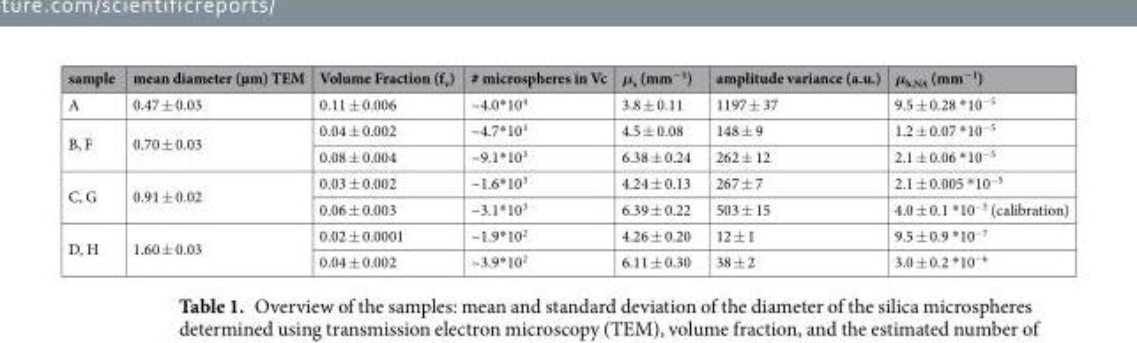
<table><thead><tr><td>sample</td><td>mean diameter (µm) TEM</td><td>Volume Fraction (f<sub>v</sub>)</td><td># microspheres in Vc</td><td>μ<sub>s</sub> (mm<sup>−1</sup>)</td><td>amplitude variance (a.u.)</td><td>μ<sub>b,NA</sub> (mm<sup>−1</sup>)</td></tr></thead><tbody><tr><td>A</td><td>0.47 ± 0.03</td><td>0.11 ± 0.006</td><td>~4.0*10<sup>4</sup></td><td>3.8 ± 0.11</td><td>1197 ± 37</td><td>9.5 ± 0.28 *10<sup>−5</sup></td></tr><tr><td rowspan="2">B, F</td><td rowspan="2">0.70 ± 0.03</td><td>0.04 ± 0.002</td><td>~4.7*10<sup>3</sup></td><td>4.5 ± 0.08</td><td>148 ± 9</td><td>1.2 ± 0.07 *10<sup>−5</sup></td></tr><tr><td>0.08 ± 0.004</td><td>~9.1*10<sup>3</sup></td><td>6.38 ± 0.24</td><td>262 ± 12</td><td>2.1 ± 0.06 *10<sup>−5</sup></td></tr><tr><td rowspan="2">C, G</td><td rowspan="2">0.91 ± 0.02</td><td>0.03 ± 0.002</td><td>~1.6*10<sup>3</sup></td><td>4.24 ± 0.13</td><td>267 ± 7</td><td>2.1 ± 0.005 *10<sup>−5</sup></td></tr><tr><td>0.06 ± 0.003</td><td>~3.1*10<sup>3</sup></td><td>6.39 ± 0.22</td><td>503 ± 15</td><td>4.0 ± 0.1 *10<sup>−5</sup> (calibration)</td></tr><tr><td rowspan="2">D, H</td><td rowspan="2">1.60 ± 0.03</td><td>0.02 ± 0.0001</td><td>~1.9*10<sup>2</sup></td><td>4.26 ± 0.20</td><td>12 ± 1</td><td>9.5 ± 0.9 *10<sup>−7</sup></td></tr><tr><td>0.04 ± 0.002</td><td>~3.9*10<sup>2</sup></td><td>6.11 ± 0.30</td><td>38 ± 2</td><td>3.0 ± 0.2 *10<sup>−6</sup></td></tr></tbody></table>